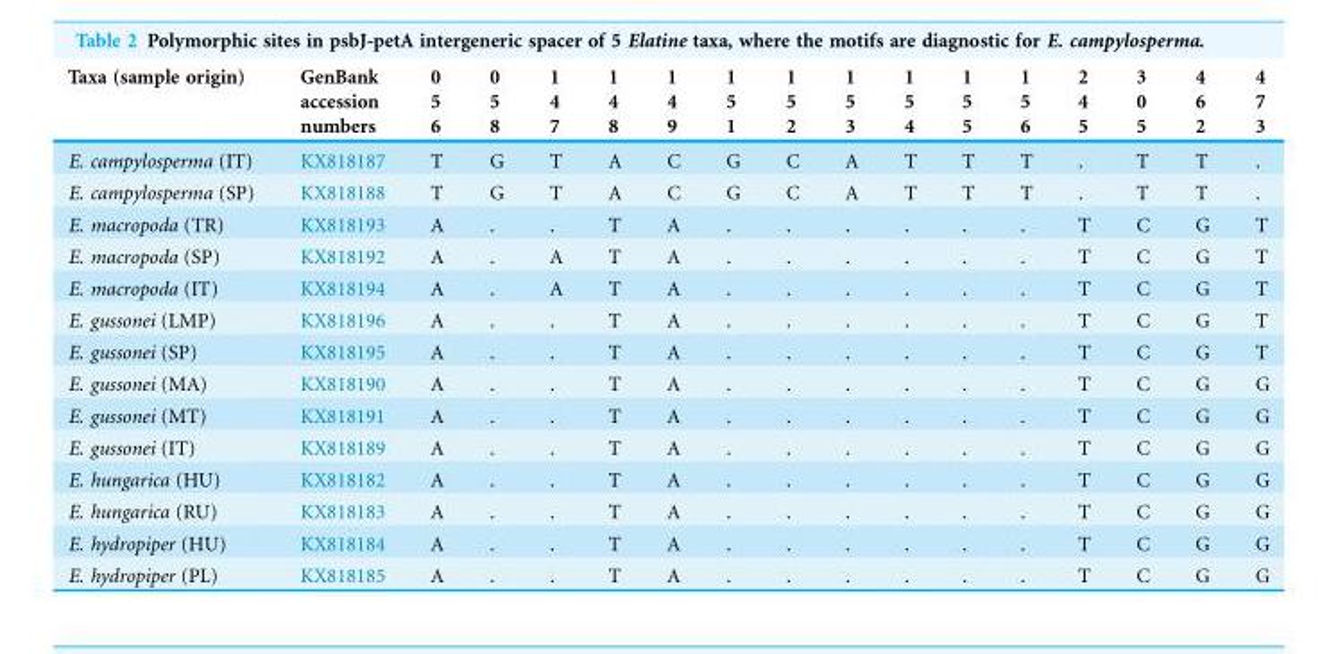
<table><thead><tr><td rowspan="3">Taxa (sample origin)</td><td rowspan="3">GenBank accession numbers</td><td rowspan="3">0 5 6</td><td rowspan="3">0 5 8</td><td rowspan="3">1 4 7</td><td rowspan="3">1 4 8</td><td rowspan="3">1 4 9</td><td rowspan="3">1 5 1</td><td rowspan="3">1 5 2</td><td rowspan="3">1 5 3</td><td rowspan="3">1 5 4</td><td rowspan="3">1 5 5</td><td rowspan="3">1 5 6</td><td rowspan="3">2 4 5</td><td rowspan="3">3 0 5</td><td rowspan="3">4 6 2</td><td rowspan="3">4 7 3</td></tr><tr></tr><tr></tr></thead><tbody><tr><td>E. campylosperma (IT)</td><td>KX818187</td><td>T</td><td>G</td><td>T</td><td>A</td><td>C</td><td>G</td><td>C</td><td>A</td><td>T</td><td>T</td><td>T</td><td>.</td><td>T</td><td>T</td><td>.</td></tr><tr><td>E. campylosperma (SP)</td><td>KX818188</td><td>T</td><td>G</td><td>T</td><td>A</td><td>C</td><td>G</td><td>C</td><td>A</td><td>T</td><td>T</td><td>T</td><td>.</td><td>T</td><td>T</td><td>.</td></tr><tr><td>E. macropoda (TR)</td><td>KX818193</td><td>A</td><td>.</td><td>.</td><td>T</td><td>A</td><td>.</td><td>.</td><td>.</td><td>.</td><td>.</td><td>.</td><td>T</td><td>C</td><td>G</td><td>T</td></tr><tr><td>E. macropoda (SP)</td><td>KX818192</td><td>A</td><td>.</td><td>A</td><td>T</td><td>A</td><td>.</td><td>.</td><td>.</td><td>.</td><td>.</td><td>.</td><td>T</td><td>C</td><td>G</td><td>T</td></tr><tr><td>E. macropoda (IT)</td><td>KX818194</td><td>A</td><td>.</td><td>A</td><td>T</td><td>A</td><td>.</td><td>.</td><td>.</td><td>.</td><td>.</td><td>.</td><td>T</td><td>C</td><td>G</td><td>T</td></tr><tr><td>E. gussonei (LMP)</td><td>KX818196</td><td>A</td><td>.</td><td>.</td><td>T</td><td>A</td><td>.</td><td>.</td><td>.</td><td>.</td><td>.</td><td>.</td><td>T</td><td>C</td><td>G</td><td>T</td></tr><tr><td>E. gussonei (SP)</td><td>KX818195</td><td>A</td><td>.</td><td>.</td><td>T</td><td>A</td><td>.</td><td>.</td><td>.</td><td>.</td><td>.</td><td>.</td><td>T</td><td>C</td><td>G</td><td>T</td></tr><tr><td>E. gussonei (MA)</td><td>KX818190</td><td>A</td><td>.</td><td>.</td><td>T</td><td>A</td><td>.</td><td>.</td><td>.</td><td>.</td><td>.</td><td>.</td><td>T</td><td>C</td><td>G</td><td>G</td></tr><tr><td>E. gussonei (MT)</td><td>KX818191</td><td>A</td><td>.</td><td>.</td><td>T</td><td>A</td><td>.</td><td>.</td><td>.</td><td>.</td><td>.</td><td>.</td><td>T</td><td>C</td><td>G</td><td>G</td></tr><tr><td>E. gussonei (IT)</td><td>KX818189</td><td>A</td><td>.</td><td>.</td><td>T</td><td>A</td><td>.</td><td>.</td><td>.</td><td>.</td><td>.</td><td>.</td><td>T</td><td>C</td><td>G</td><td>G</td></tr><tr><td>E. hungarica (HU)</td><td>KX818182</td><td>A</td><td>.</td><td>.</td><td>T</td><td>A</td><td>.</td><td>.</td><td>.</td><td>.</td><td>.</td><td>.</td><td>T</td><td>C</td><td>G</td><td>G</td></tr><tr><td>E. hungarica (RU)</td><td>KX818183</td><td>A</td><td>.</td><td>.</td><td>T</td><td>A</td><td>.</td><td>.</td><td>.</td><td>.</td><td>.</td><td>.</td><td>T</td><td>C</td><td>G</td><td>G</td></tr><tr><td>E. hydropiper (HU)</td><td>KX818184</td><td>A</td><td>.</td><td>.</td><td>T</td><td>A</td><td>.</td><td>.</td><td>.</td><td>.</td><td>.</td><td>.</td><td>T</td><td>C</td><td>G</td><td>G</td></tr><tr><td>E. hydropiper (PL)</td><td>KX818185</td><td>A</td><td>.</td><td>.</td><td>T</td><td>A</td><td>.</td><td>.</td><td>.</td><td>.</td><td>.</td><td>.</td><td>T</td><td>C</td><td>G</td><td>G</td></tr></tbody></table>